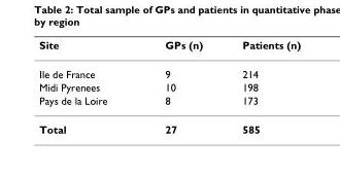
<table><thead><tr><td>Site</td><td>GPs (n)</td><td>Patients (n)</td></tr></thead><tbody><tr><td>Ile de France</td><td>9</td><td>214</td></tr><tr><td>Midi Pyrenees</td><td>10</td><td>198</td></tr><tr><td>Pays de la Loire</td><td>8</td><td>173</td></tr><tr><td>Total</td><td>27</td><td>585</td></tr></tbody></table>